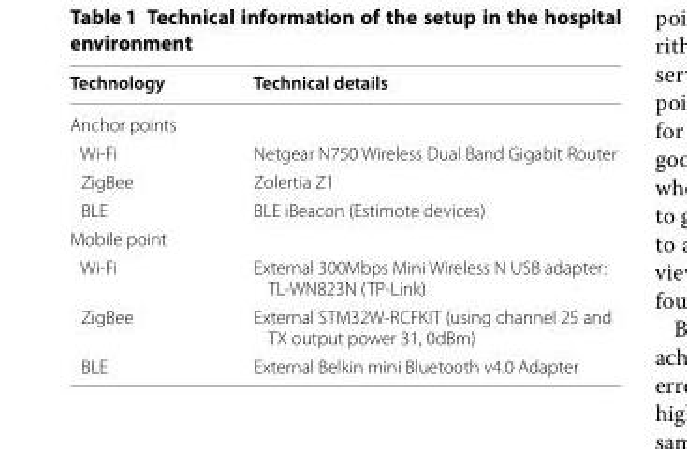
<table><thead><tr><td>Technology</td><td>Technical details</td></tr></thead><tbody><tr><td colspan="2">Anchor points</td></tr><tr><td>Wi-Fi</td><td>Netgear N750 Wireless Dual Band Gigabit Router</td></tr><tr><td>ZigBee</td><td>Zolertia Z1</td></tr><tr><td>BLE</td><td>BLE iBeacon (Estimote devices)</td></tr><tr><td colspan="2">Mobile point</td></tr><tr><td>Wi-Fi</td><td>External 300Mbps Mini Wireless N USB adapter: TL-WN823N (TP-Link)</td></tr><tr><td>ZigBee</td><td>External STM32W-RCFKIT (using channel 25 and TX output power 31, 0dBm)</td></tr><tr><td>BLE</td><td>External Belkin mini Bluetooth v4.0 Adapter</td></tr></tbody></table>